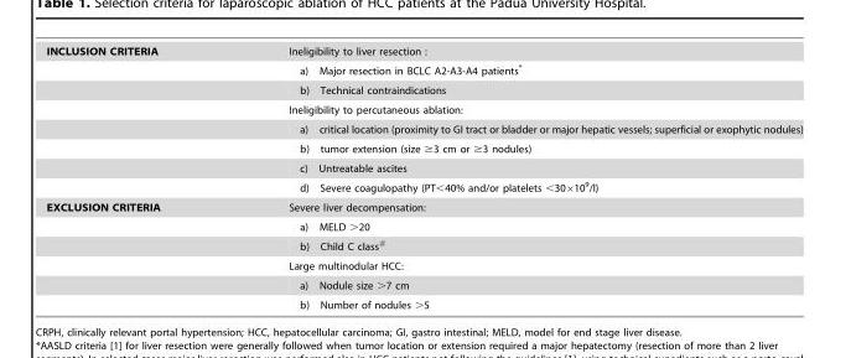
<table><tbody><tr><td rowspan="8">INCLUSION CRITERIA</td><td>Ineligibility to liver resection :</td></tr><tr><td>a) Major resection in BCLC A2-A3-A4 patients*</td></tr><tr><td>b) Technical contraindications</td></tr><tr><td>Ineligibility to percutaneous ablation:</td></tr><tr><td>a) critical location (proximity to GI tract or bladder or major hepatic vessels; superficial or exophytic nodules)</td></tr><tr><td>b) tumor extension (size ≥3 cm or ≥3 nodules)</td></tr><tr><td>c) Untreatable ascites</td></tr><tr><td>d) Severe coagulopathy (PT&lt;40% and/or platelets &lt;30×10<sup>9</sup>/l)</td></tr><tr><td rowspan="6">EXCLUSION CRITERIA</td><td>Severe liver decompensation:</td></tr><tr><td>a) MELD &gt;20</td></tr><tr><td>b) Child C class#</td></tr><tr><td>Large multinodular HCC:</td></tr><tr><td>a) Nodule size &gt;7 cm</td></tr><tr><td>b) Number of nodules &gt;5</td></tr></tbody></table>